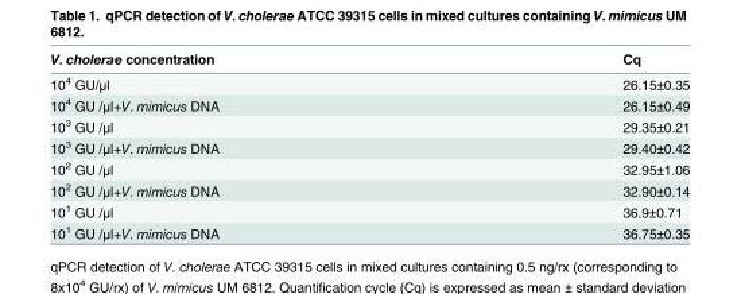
<table><thead><tr><td>V. cholerae concentration</td><td>Cq</td></tr></thead><tbody><tr><td>10<sup>4</sup> GU/μl</td><td>26.15±0.35</td></tr><tr><td>10<sup>4</sup> GU /μl+V. mimicus DNA</td><td>26.15±0.49</td></tr><tr><td>10<sup>3</sup> GU /μl</td><td>29.35±0.21</td></tr><tr><td>10<sup>3</sup> GU /μl+V. mimicus DNA</td><td>29.40±0.42</td></tr><tr><td>10<sup>2</sup> GU /μl</td><td>32.95±1.06</td></tr><tr><td>10<sup>2</sup> GU /μl+V. mimicus DNA</td><td>32.90±0.14</td></tr><tr><td>10<sup>1</sup> GU /μl</td><td>36.9±0.71</td></tr><tr><td>10<sup>1</sup> GU /μl+V. mimicus DNA</td><td>36.75±0.35</td></tr></tbody></table>